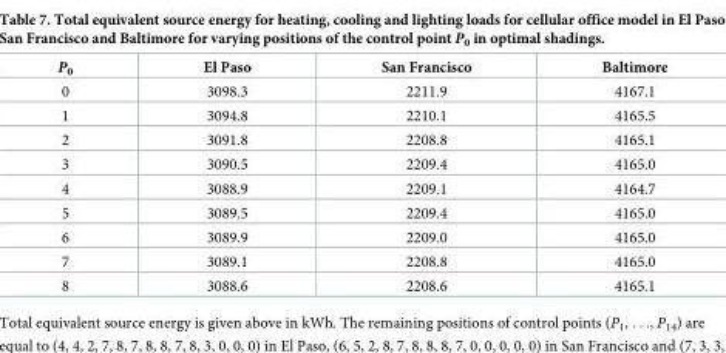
<table><thead><tr><td>P<sub>0</sub></td><td>El Paso</td><td>San Francisco</td><td>Baltimore</td></tr></thead><tbody><tr><td>0</td><td>3098.3</td><td>2211.9</td><td>4167.1</td></tr><tr><td>1</td><td>3094.8</td><td>2210.1</td><td>4165.5</td></tr><tr><td>2</td><td>3091.8</td><td>2208.8</td><td>4165.1</td></tr><tr><td>3</td><td>3090.5</td><td>2209.4</td><td>4165.0</td></tr><tr><td>4</td><td>3088.9</td><td>2209.1</td><td>4164.7</td></tr><tr><td>5</td><td>3089.5</td><td>2209.4</td><td>4165.0</td></tr><tr><td>6</td><td>3089.9</td><td>2209.0</td><td>4165.0</td></tr><tr><td>7</td><td>3089.1</td><td>2208.8</td><td>4165.0</td></tr><tr><td>8</td><td>3088.6</td><td>2208.6</td><td>4165.1</td></tr></tbody></table>